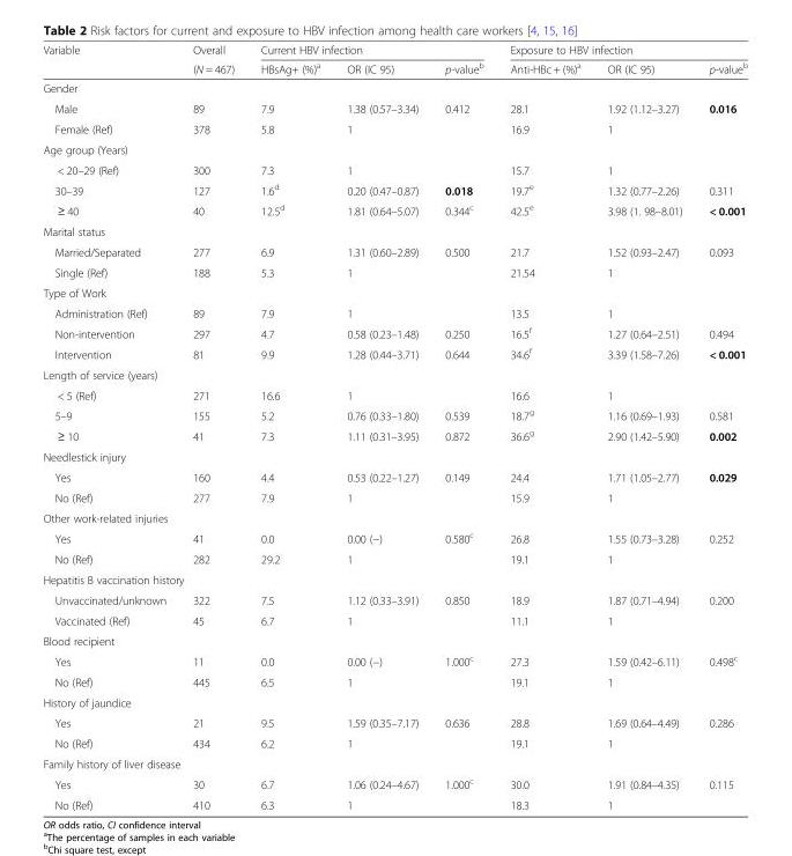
<table><thead><tr><td rowspan="2">Variable</td><td rowspan="2">Overall (N = 467)</td><td colspan="3">Current HBV infection</td><td colspan="3">Exposure to HBV infection</td></tr><tr><td>HBsAg+ (%)<sup>a</sup></td><td>OR (IC 95)</td><td>p-value<sup>b</sup></td><td>Anti-HBc + (%)<sup>a</sup></td><td>OR (IC 95)</td><td>p-value<sup>b</sup></td></tr></thead><tbody><tr><td colspan="8">Gender</td></tr><tr><td>Male</td><td>89</td><td>7.9</td><td>1.38 (0.57–3.34)</td><td>0.412</td><td>28.1</td><td>1.92 (1.12–3.27)</td><td>0.016</td></tr><tr><td>Female (Ref)</td><td>378</td><td>5.8</td><td>1</td><td></td><td>16.9</td><td>1</td><td></td></tr><tr><td colspan="8">Age group (Years)</td></tr><tr><td>&lt; 20–29 (Ref)</td><td>300</td><td>7.3</td><td>1</td><td></td><td>15.7</td><td>1</td><td></td></tr><tr><td>30–39</td><td>127</td><td>1.6<sup>d</sup></td><td>0.20 (0.47–0.87)</td><td>0.018</td><td>19.7<sup>e</sup></td><td>1.32 (0.77–2.26)</td><td>0.311</td></tr><tr><td>≥ 40</td><td>40</td><td>12.5<sup>d</sup></td><td>1.81 (0.64–5.07)</td><td>0.344<sup>c</sup></td><td>42.5<sup>e</sup></td><td>3.98 (1. 98–8.01)</td><td>&lt; 0.001</td></tr><tr><td colspan="8">Marital status</td></tr><tr><td>Married/Separated</td><td>277</td><td>6.9</td><td>1.31 (0.60–2.89)</td><td>0.500</td><td>21.7</td><td>1.52 (0.93–2.47)</td><td>0.093</td></tr><tr><td>Single (Ref)</td><td>188</td><td>5.3</td><td>1</td><td></td><td>21.54</td><td>1</td><td></td></tr><tr><td colspan="8">Type of Work</td></tr><tr><td>Administration (Ref)</td><td>89</td><td>7.9</td><td>1</td><td></td><td>13.5</td><td>1</td><td></td></tr><tr><td>Non-intervention</td><td>297</td><td>4.7</td><td>0.58 (0.23–1.48)</td><td>0.250</td><td>16.5<sup>f</sup></td><td>1.27 (0.64–2.51)</td><td>0.494</td></tr><tr><td>Intervention</td><td>81</td><td>9.9</td><td>1.28 (0.44–3.71)</td><td>0.644</td><td>34.6<sup>f</sup></td><td>3.39 (1.58–7.26)</td><td>&lt; 0.001</td></tr><tr><td colspan="8">Length of service (years)</td></tr><tr><td>&lt; 5 (Ref)</td><td>271</td><td>16.6</td><td>1</td><td></td><td>16.6</td><td>1</td><td></td></tr><tr><td>5–9</td><td>155</td><td>5.2</td><td>0.76 (0.33–1.80)</td><td>0.539</td><td>18.7<sup>g</sup></td><td>1.16 (0.69–1.93)</td><td>0.581</td></tr><tr><td>≥ 10</td><td>41</td><td>7.3</td><td>1.11 (0.31–3.95)</td><td>0.872</td><td>36.6<sup>g</sup></td><td>2.90 (1.42–5.90)</td><td>0.002</td></tr><tr><td colspan="8">Needlestick injury</td></tr><tr><td>Yes</td><td>160</td><td>4.4</td><td>0.53 (0.22–1.27)</td><td>0.149</td><td>24.4</td><td>1.71 (1.05–2.77)</td><td>0.029</td></tr><tr><td>No (Ref)</td><td>277</td><td>7.9</td><td>1</td><td></td><td>15.9</td><td>1</td><td></td></tr><tr><td colspan="8">Other work-related injuries</td></tr><tr><td>Yes</td><td>41</td><td>0.0</td><td>0.00 (−)</td><td>0.580<sup>c</sup></td><td>26.8</td><td>1.55 (0.73–3.28)</td><td>0.252</td></tr><tr><td>No (Ref)</td><td>282</td><td>29.2</td><td>1</td><td></td><td>19.1</td><td>1</td><td></td></tr><tr><td colspan="8">Hepatitis B vaccination history</td></tr><tr><td>Unvaccinated/unknown</td><td>322</td><td>7.5</td><td>1.12 (0.33–3.91)</td><td>0.850</td><td>18.9</td><td>1.87 (0.71–4.94)</td><td>0.200</td></tr><tr><td>Vaccinated (Ref)</td><td>45</td><td>6.7</td><td>1</td><td></td><td>11.1</td><td>1</td><td></td></tr><tr><td colspan="8">Blood recipient</td></tr><tr><td>Yes</td><td>11</td><td>0.0</td><td>0.00 (−)</td><td>1.000<sup>c</sup></td><td>27.3</td><td>1.59 (0.42–6.11)</td><td>0.498<sup>c</sup></td></tr><tr><td>No (Ref)</td><td>445</td><td>6.5</td><td>1</td><td></td><td>19.1</td><td>1</td><td></td></tr><tr><td colspan="8">History of jaundice</td></tr><tr><td>Yes</td><td>21</td><td>9.5</td><td>1.59 (0.35–7.17)</td><td>0.636</td><td>28.8</td><td>1.69 (0.64–4.49)</td><td>0.286</td></tr><tr><td>No (Ref)</td><td>434</td><td>6.2</td><td>1</td><td></td><td>19.1</td><td>1</td><td></td></tr><tr><td colspan="8">Family history of liver disease</td></tr><tr><td>Yes</td><td>30</td><td>6.7</td><td>1.06 (0.24–4.67)</td><td>1.000<sup>c</sup></td><td>30.0</td><td>1.91 (0.84–4.35)</td><td>0.115</td></tr><tr><td>No (Ref)</td><td>410</td><td>6.3</td><td>1</td><td></td><td>18.3</td><td>1</td><td></td></tr></tbody></table>